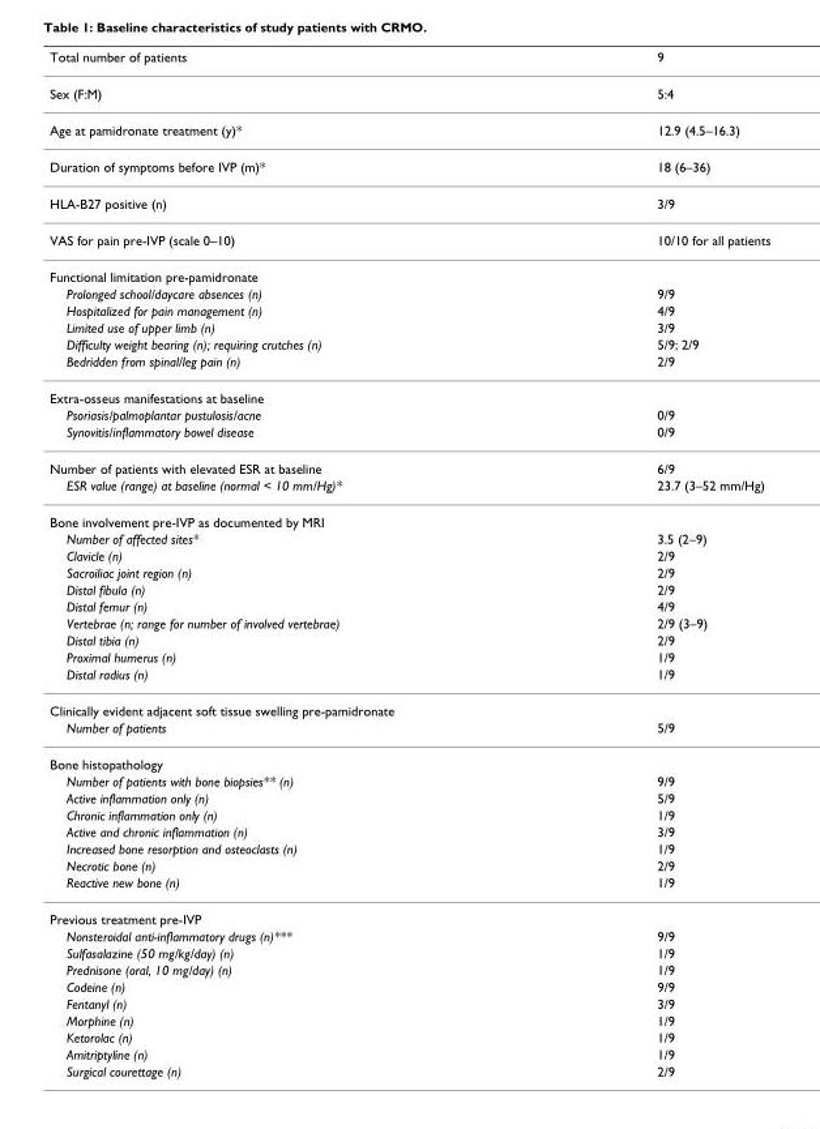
<table><thead><tr><td>Total number of patients</td><td>9</td></tr></thead><tbody><tr><td>Sex (F:M)</td><td>5:4</td></tr><tr><td>Age at pamidronate treatment (y)*</td><td>12.9 (4.5–16.3)</td></tr><tr><td>Duration of symptoms before IVP (m)*</td><td>18 (6–36)</td></tr><tr><td>HLA-B27 positive (n)</td><td>3/9</td></tr><tr><td>VAS for pain pre-IVP (scale 0–10)</td><td>10/10 for all patients</td></tr><tr><td colspan="2">Functional limitation pre-pamidronate</td></tr><tr><td>Prolonged school/daycare absences (n)</td><td>9/9</td></tr><tr><td>Hospitalized for pain management (n)</td><td>4/9</td></tr><tr><td>Limited use of upper limb (n)</td><td>3/9</td></tr><tr><td>Difficulty weight bearing (n); requiring crutches (n)</td><td>5/9; 2/9</td></tr><tr><td>Bedridden from spinal/leg pain (n)</td><td>2/9</td></tr><tr><td colspan="2">Extra-osseus manifestations at baseline</td></tr><tr><td>Psoriasis/palmoplantar pustulosis/acne</td><td>0/9</td></tr><tr><td>Synovitis/inflammatory bowel disease</td><td>0/9</td></tr><tr><td>Number of patients with elevated ESR at baseline</td><td>6/9</td></tr><tr><td>ESR value (range) at baseline (normal &lt; 10 mm/Hg)*</td><td>23.7 (3–52 mm/Hg)</td></tr><tr><td colspan="2">Bone involvement pre-IVP as documented by MRI</td></tr><tr><td>Number of affected sites*</td><td>3.5 (2–9)</td></tr><tr><td>Clavicle (n)</td><td>2/9</td></tr><tr><td>Sacroiliac joint region (n)</td><td>2/9</td></tr><tr><td>Distal fibula (n)</td><td>2/9</td></tr><tr><td>Distal femur (n)</td><td>4/9</td></tr><tr><td>Vertebrae (n; range for number of involved vertebrae)</td><td>2/9 (3–9)</td></tr><tr><td>Distal tibia (n)</td><td>2/9</td></tr><tr><td>Proximal humerus (n)</td><td>1/9</td></tr><tr><td>Distal radius (n)</td><td>1/9</td></tr><tr><td colspan="2">Clinically evident adjacent soft tissue swelling pre-pamidronate</td></tr><tr><td>Number of patients</td><td>5/9</td></tr><tr><td colspan="2">Bone histopathology</td></tr><tr><td>Number of patients with bone biopsies** (n)</td><td>9/9</td></tr><tr><td>Active inflammation only (n)</td><td>5/9</td></tr><tr><td>Chronic inflammation only (n)</td><td>1/9</td></tr><tr><td>Active and chronic inflammation (n)</td><td>3/9</td></tr><tr><td>Increased bone resorption and osteoclasts (n)</td><td>1/9</td></tr><tr><td>Necrotic bone (n)</td><td>2/9</td></tr><tr><td>Reactive new bone (n)</td><td>1/9</td></tr><tr><td colspan="2">Previous treatment pre-IVP</td></tr><tr><td>Nonsteroidal anti-inflammatory drugs (n)***</td><td>9/9</td></tr><tr><td>Sulfasalazine (50 mg/kg/day) (n)</td><td>1/9</td></tr><tr><td>Prednisone (oral, 10 mg/day) (n)</td><td>1/9</td></tr><tr><td>Codeine (n)</td><td>9/9</td></tr><tr><td>Fentanyl (n)</td><td>3/9</td></tr><tr><td>Morphine (n)</td><td>1/9</td></tr><tr><td>Ketorolac (n)</td><td>1/9</td></tr><tr><td>Amitriptyline (n)</td><td>1/9</td></tr><tr><td>Surgical courettage (n)</td><td>2/9</td></tr></tbody></table>